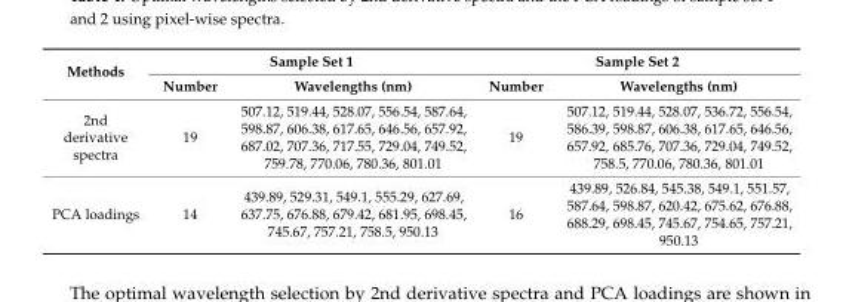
<table><thead><tr><td rowspan="2">Methods</td><td colspan="2">Sample Set 1</td><td colspan="2">Sample Set 2</td></tr><tr><td>Number</td><td>Wavelengths (nm)</td><td>Number</td><td>Wavelengths (nm)</td></tr></thead><tbody><tr><td>2nd derivative spectra</td><td>19</td><td>507.12, 519.44, 528.07, 556.54, 587.64, 598.87, 606.38, 617.65, 646.56, 657.92, 687.02, 707.36, 717.55, 729.04, 749.52, 759.78, 770.06, 780.36, 801.01</td><td>19</td><td>507.12, 519.44, 528.07, 536.72, 556.54, 586.39, 598.87, 606.38, 617.65, 646.56, 657.92, 685.76, 707.36, 729.04, 749.52, 758.5, 770.06, 780.36, 801.01</td></tr><tr><td>PCA loadings</td><td>14</td><td>439.89, 529.31, 549.1, 555.29, 627.69, 637.75, 676.88, 679.42, 681.95, 698.45, 745.67, 757.21, 758.5, 950.13</td><td>16</td><td>439.89, 526.84, 545.38, 549.1, 551.57, 587.64, 598.87, 620.42, 675.62, 676.88, 688.29, 698.45, 745.67, 754.65, 757.21, 950.13</td></tr></tbody></table>